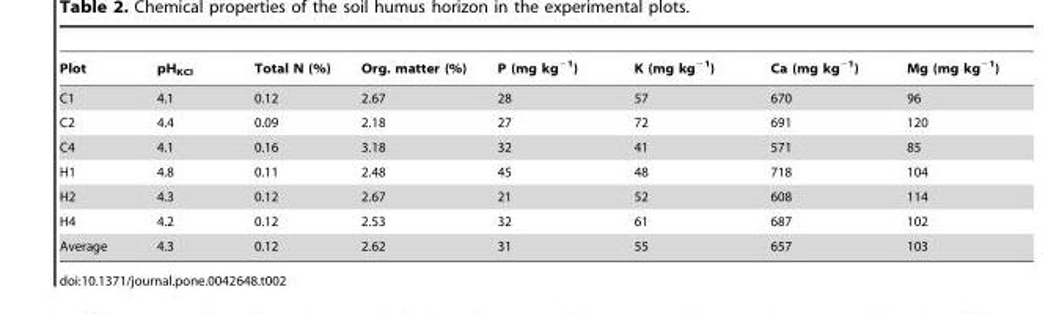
<table><thead><tr><td>Plot</td><td>pH<sub>KCl</sub></td><td>Total N (%)</td><td>Org. matter (%)</td><td>P (mg kg<sup>−1</sup>)</td><td>K (mg kg<sup>−1</sup>)</td><td>Ca (mg kg<sup>−1</sup>)</td><td>Mg (mg kg<sup>−1</sup>)</td></tr></thead><tbody><tr><td>C1</td><td>4.1</td><td>0.12</td><td>2.67</td><td>28</td><td>57</td><td>670</td><td>96</td></tr><tr><td>C2</td><td>4.4</td><td>0.09</td><td>2.18</td><td>27</td><td>72</td><td>691</td><td>120</td></tr><tr><td>C4</td><td>4.1</td><td>0.16</td><td>3.18</td><td>32</td><td>41</td><td>571</td><td>85</td></tr><tr><td>H1</td><td>4.8</td><td>0.11</td><td>2.48</td><td>45</td><td>48</td><td>718</td><td>104</td></tr><tr><td>H2</td><td>4.3</td><td>0.12</td><td>2.67</td><td>21</td><td>52</td><td>608</td><td>114</td></tr><tr><td>H4</td><td>4.2</td><td>0.12</td><td>2.53</td><td>32</td><td>61</td><td>687</td><td>102</td></tr><tr><td>Average</td><td>4.3</td><td>0.12</td><td>2.62</td><td>31</td><td>55</td><td>657</td><td>103</td></tr></tbody></table>